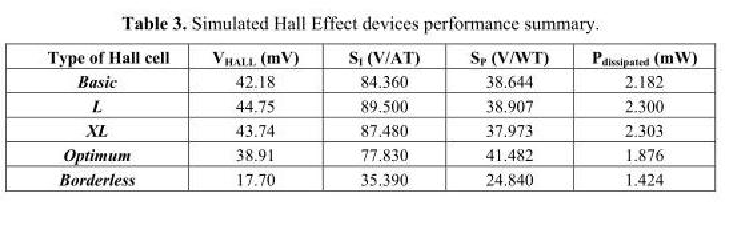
<table><thead><tr><td>Type of Hall cell</td><td>V<sub>HALL</sub> (mV)</td><td>S<sub>I</sub> (V/AT)</td><td>S<sub>P</sub> (V/WT)</td><td>P<sub>dissipated</sub> (mW)</td></tr></thead><tbody><tr><td>Basic</td><td>42.18</td><td>84.360</td><td>38.644</td><td>2.182</td></tr><tr><td>L</td><td>44.75</td><td>89.500</td><td>38.907</td><td>2.300</td></tr><tr><td>XL</td><td>43.74</td><td>87.480</td><td>37.973</td><td>2.303</td></tr><tr><td>Optimum</td><td>38.91</td><td>77.830</td><td>41.482</td><td>1.876</td></tr><tr><td>Borderless</td><td>17.70</td><td>35.390</td><td>24.840</td><td>1.424</td></tr></tbody></table>